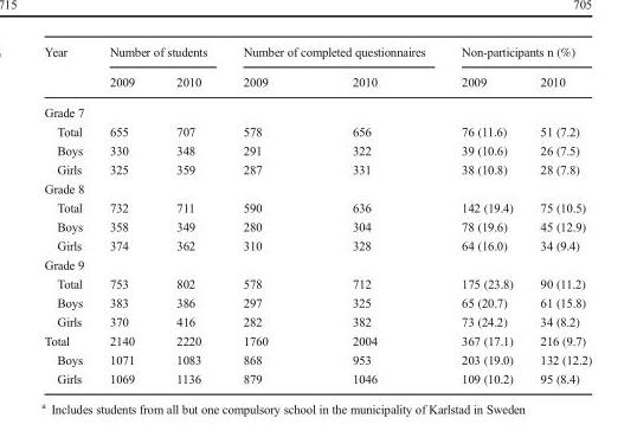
<table><thead><tr><td rowspan="2">Year</td><td colspan="2">Number of students</td><td colspan="2">Number of completed questionnaires</td><td colspan="2">Non-participants n (%)</td></tr><tr><td>2009</td><td>2010</td><td>2009</td><td>2010</td><td>2009</td><td>2010</td></tr></thead><tbody><tr><td colspan="7">Grade 7</td></tr><tr><td>Total</td><td>655</td><td>707</td><td>578</td><td>656</td><td>76 (11.6)</td><td>51 (7.2)</td></tr><tr><td>Boys</td><td>330</td><td>348</td><td>291</td><td>322</td><td>39 (10.6)</td><td>26 (7.5)</td></tr><tr><td>Girls</td><td>325</td><td>359</td><td>287</td><td>331</td><td>38 (10.8)</td><td>28 (7.8)</td></tr><tr><td colspan="7">Grade 8</td></tr><tr><td>Total</td><td>732</td><td>711</td><td>590</td><td>636</td><td>142 (19.4)</td><td>75 (10.5)</td></tr><tr><td>Boys</td><td>358</td><td>349</td><td>280</td><td>304</td><td>78 (19.6)</td><td>45 (12.9)</td></tr><tr><td>Girls</td><td>374</td><td>362</td><td>310</td><td>328</td><td>64 (16.0)</td><td>34 (9.4)</td></tr><tr><td colspan="7">Grade 9</td></tr><tr><td>Total</td><td>753</td><td>802</td><td>578</td><td>712</td><td>175 (23.8)</td><td>90 (11.2)</td></tr><tr><td>Boys</td><td>383</td><td>386</td><td>297</td><td>325</td><td>65 (20.7)</td><td>61 (15.8)</td></tr><tr><td>Girls</td><td>370</td><td>416</td><td>282</td><td>382</td><td>73 (24.2)</td><td>34 (8.2)</td></tr><tr><td>Total</td><td>2140</td><td>2220</td><td>1760</td><td>2004</td><td>367 (17.1)</td><td>216 (9.7)</td></tr><tr><td>Boys</td><td>1071</td><td>1083</td><td>868</td><td>953</td><td>203 (19.0)</td><td>132 (12.2)</td></tr><tr><td>Girls</td><td>1069</td><td>1136</td><td>879</td><td>1046</td><td>109 (10.2)</td><td>95 (8.4)</td></tr></tbody></table>